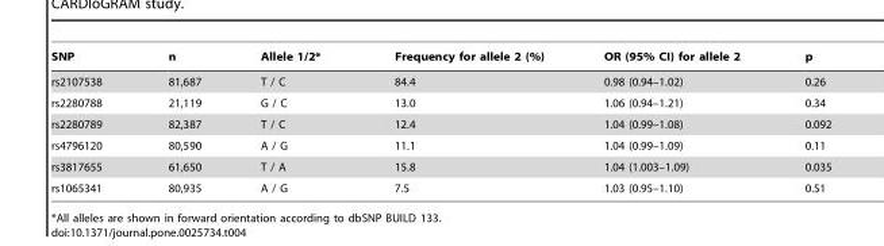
<table><thead><tr><td>SNP</td><td>n</td><td>Allele 1/2*</td><td>Frequency for allele 2 (%)</td><td>OR (95% CI) for allele 2</td><td>p</td></tr></thead><tbody><tr><td>rs2107538</td><td>81,687</td><td>T / C</td><td>84.4</td><td>0.98 (0.94–1.02)</td><td>0.26</td></tr><tr><td>rs2280788</td><td>21,119</td><td>G / C</td><td>13.0</td><td>1.06 (0.94–1.21)</td><td>0.34</td></tr><tr><td>rs2280789</td><td>82,387</td><td>T / C</td><td>12.4</td><td>1.04 (0.99–1.08)</td><td>0.092</td></tr><tr><td>rs4796120</td><td>80,590</td><td>A / G</td><td>11.1</td><td>1.04 (0.99–1.09)</td><td>0.11</td></tr><tr><td>rs3817655</td><td>61,650</td><td>T / A</td><td>15.8</td><td>1.04 (1.003–1.09)</td><td>0.035</td></tr><tr><td>rs1065341</td><td>80,935</td><td>A / G</td><td>7.5</td><td>1.03 (0.95–1.10)</td><td>0.51</td></tr></tbody></table>